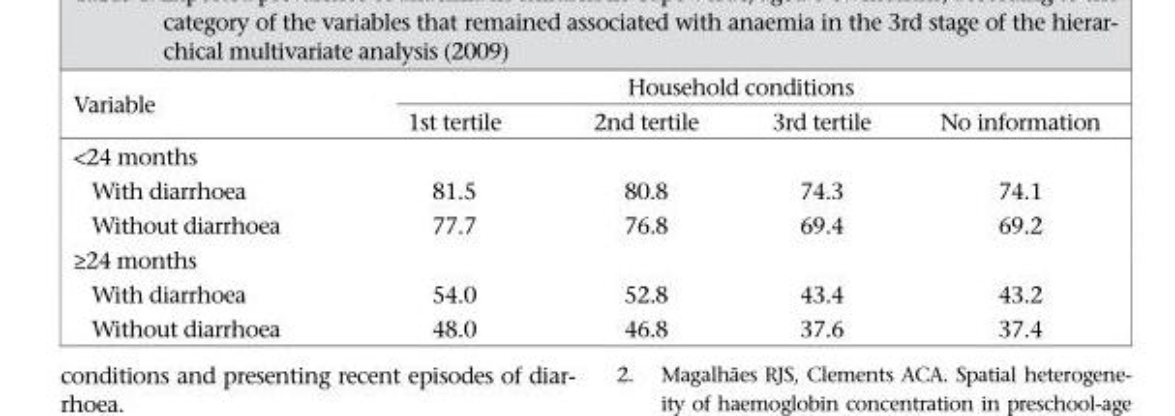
<table><thead><tr><td rowspan="2">Variable</td><td colspan="4">Household conditions</td></tr><tr><td>1st tertile</td><td>2nd tertile</td><td>3rd tertile</td><td>No information</td></tr></thead><tbody><tr><td colspan="5">&lt;24 months</td></tr><tr><td>With diarrhoea</td><td>81.5</td><td>80.8</td><td>74.3</td><td>74.1</td></tr><tr><td>Without diarrhoea</td><td>77.7</td><td>76.8</td><td>69.4</td><td>69.2</td></tr><tr><td colspan="5">≥24 months</td></tr><tr><td>With diarrhoea</td><td>54.0</td><td>52.8</td><td>43.4</td><td>43.2</td></tr><tr><td>Without diarrhoea</td><td>48.0</td><td>46.8</td><td>37.6</td><td>37.4</td></tr></tbody></table>